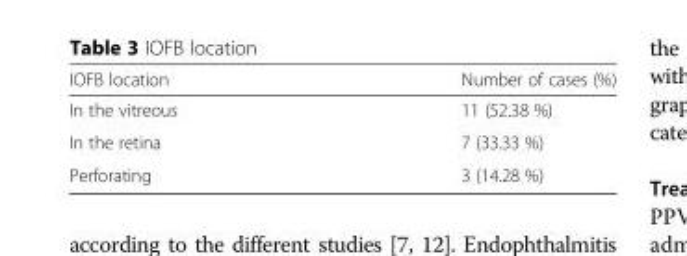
<table><thead><tr><td>IOFB location</td><td>Number of cases (%)</td></tr></thead><tbody><tr><td>In the vitreous</td><td>11 (52.38 %)</td></tr><tr><td>In the retina</td><td>7 (33.33 %)</td></tr><tr><td>Perforating</td><td>3 (14.28 %)</td></tr></tbody></table>